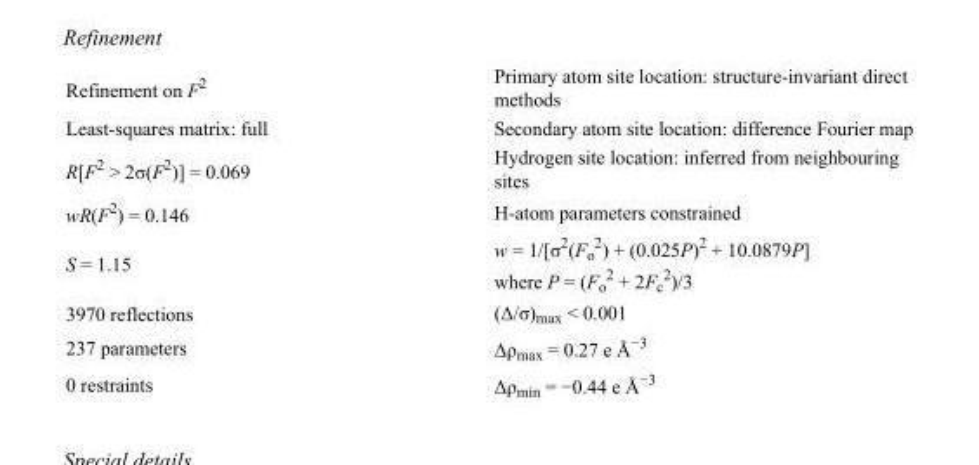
<table><tbody><tr><td>Refinement on F<sup>2</sup></td><td>Primary atom site location: structure-invariant direct methods</td></tr><tr><td>Least-squares matrix: full</td><td>Secondary atom site location: difference Fourier map</td></tr><tr><td>R[F<sup>2</sup> &gt; 2σ(F<sup>2</sup>)] = 0.069</td><td>Hydrogen site location: inferred from neighbouring sites</td></tr><tr><td>wR(F<sup>2</sup>) = 0.146</td><td>H-atom parameters constrained</td></tr><tr><td>S = 1.15</td><td>w = 1/[σ<sup>2</sup>(F<sub>o</sub> <sup>2</sup>) + (0.025P)<sup>2</sup> + 10.0879P] where P = (F<sub>o</sub> <sup>2</sup> + 2F<sub>c</sub> <sup>2</sup>)/3</td></tr><tr><td>3970 reflections</td><td>(Δ/σ)<sub>max</sub> &lt; 0.001</td></tr><tr><td>237 parameters</td><td>Δρ<sub>max</sub> = 0.27 e Å<sup>−3</sup></td></tr><tr><td>0 restraints</td><td>Δρ<sub>min</sub> = −0.44 e Å<sup>−3</sup></td></tr></tbody></table>